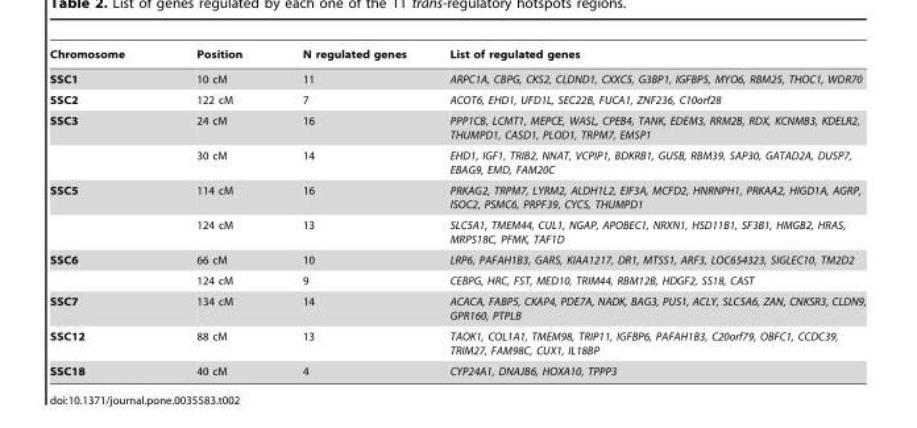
<table><thead><tr><td>Chromosome</td><td>Position</td><td>N regulated genes</td><td>List of regulated genes</td></tr></thead><tbody><tr><td>SSC1</td><td>10 cM</td><td>11</td><td>ARPC1A, CBPG, CKS2, CLDND1, CXXC5, G3BP1, IGFBP5, MYO6, RBM25, THOC1, WDR70</td></tr><tr><td>SSC2</td><td>122 cM</td><td>7</td><td>ACOT6, EHD1, UFD1L, SEC22B, FUCA1, ZNF236, C10orf28</td></tr><tr><td rowspan="2">SSC3</td><td>24 cM</td><td>16</td><td>PPP1CB, LCMT1, MEPCE, WASL, CPEB4, TANK, EDEM3, RRM2B, RDX, KCNMB3, KDELR2, THUMPD1, CASD1, PLOD1, TRPM7, EMSP1</td></tr><tr><td>30 cM</td><td>14</td><td>EHD1, IGF1, TRIB2, NNAT, VCPIP1, BDKRB1, GUSB, RBM39, SAP30, GATAD2A, DUSP7, EBAG9, EMD, FAM20C</td></tr><tr><td rowspan="2">SSC5</td><td>114 cM</td><td>16</td><td>PRKAG2, TRPM7, LYRM2, ALDH1L2, EIF3A, MCFD2, HNRNPH1, PRKAA2, HIGD1A, AGRP, ISOC2, PSMC6, PRPF39, CYCS, THUMPD1</td></tr><tr><td>124 cM</td><td>13</td><td>SLC5A1, TMEM44, CUL1, NGAP, APOBEC1, NRXN1, HSD11B1, SF3B1, HMGB2, HRAS, MRPS18C, PFMK, TAF1D</td></tr><tr><td rowspan="2">SSC6</td><td>66 cM</td><td>10</td><td>LRP6, PAFAH1B3, GARS, KIAA1217, DR1, MTSS1, ARF3, LOC654323, SIGLEC10, TM2D2</td></tr><tr><td>124 cM</td><td>9</td><td>CEBPG, HRC, FST, MED10, TRIM44, RBM12B, HDGF2, SS18, CAST</td></tr><tr><td>SSC7</td><td>134 cM</td><td>14</td><td>ACACA, FABP5, CKAP4, PDE7A, NADK, BAG3, PUS1, ACLY, SLC5A6, ZAN, CNKSR3, CLDN9, GPR160, PTPLB</td></tr><tr><td>SSC12</td><td>88 cM</td><td>13</td><td>TAOK1, COL1A1, TMEM98, TRIP11, IGFBP6, PAFAH1B3, C20orf79, OBFC1, CCDC39, TRIM27, FAM98C, CUX1, IL18BP</td></tr><tr><td>SSC18</td><td>40 cM</td><td>4</td><td>CYP24A1, DNAJB6, HOXA10, TPPP3</td></tr></tbody></table>